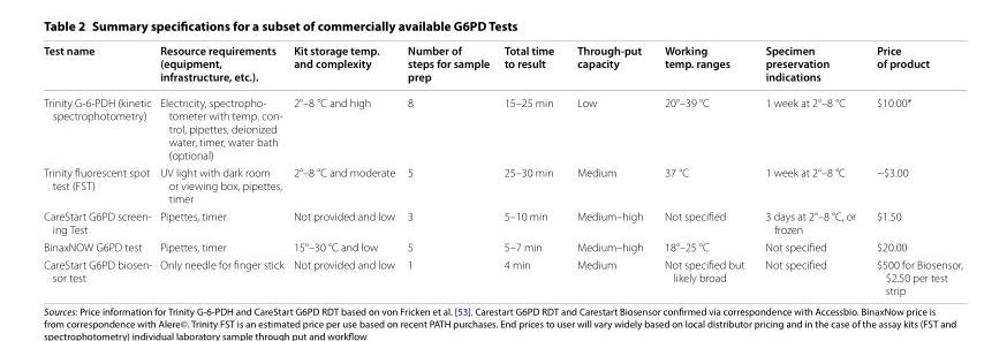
<table><thead><tr><td>Test name</td><td>Resource requirements (equipment, infrastructure, etc.).</td><td>Kit storage temp. and complexity</td><td>Number of steps for sample prep</td><td>Total time to result</td><td>Through‑put capacity</td><td>Working temp. ranges</td><td>Specimen preservation indications</td><td>Price of product</td></tr></thead><tbody><tr><td>Trinity G‑6‑PDH (kinetic spectrophotometry)</td><td>Electricity, spectropho‑ tometer with temp. con‑ trol, pipettes, deionized water, timer, water bath (optional)</td><td>2°–8 °C and high</td><td>8</td><td>15–25 min</td><td>Low</td><td>20°–39 °C</td><td>1 week at 2°–8 °C</td><td>$10.00*</td></tr><tr><td>Trinity fluorescent spot test (FST)</td><td>UV light with dark room or viewing box, pipettes, timer</td><td>2°–8 °C and moderate</td><td>5</td><td>25–30 min</td><td>Medium</td><td>37 °C</td><td>1 week at 2°–8 °C</td><td>~$3.00</td></tr><tr><td>CareStart G6PD screen‑ ing Test</td><td>Pipettes, timer</td><td>Not provided and low</td><td>3</td><td>5–10 min</td><td>Medium–high</td><td>Not specified</td><td>3 days at 2°–8 °C, or frozen</td><td>$1.50</td></tr><tr><td>BinaxNOW G6PD test</td><td>Pipettes, timer</td><td>15°–30 °C and low</td><td>5</td><td>5–7 min</td><td>Medium–high</td><td>18°–25 °C</td><td>Not specified</td><td>$20.00</td></tr><tr><td>CareStart G6PD biosen‑ sor test</td><td>Only needle for finger stick</td><td>Not provided and low</td><td>1</td><td>4 min</td><td>Medium</td><td>Not specified but likely broad</td><td>Not specified</td><td>$500 for Biosensor, $2.50 per test strip</td></tr></tbody></table>